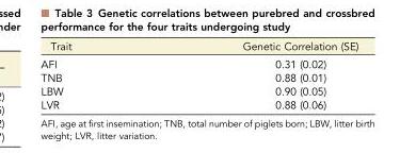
<table><thead><tr><td>Trait</td><td>Genetic Correlation (SE)</td></tr></thead><tbody><tr><td>AFI</td><td>0.31 (0.02)</td></tr><tr><td>TNB</td><td>0.88 (0.01)</td></tr><tr><td>LBW</td><td>0.90 (0.05)</td></tr><tr><td>LVR</td><td>0.88 (0.06)</td></tr></tbody></table>